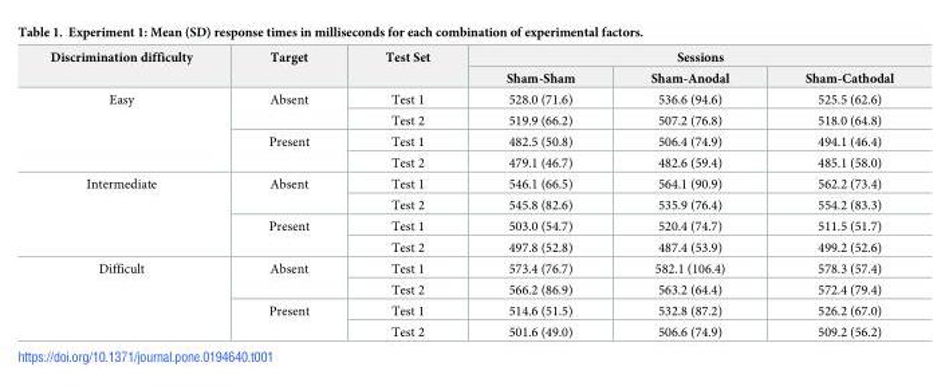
<table><thead><tr><td rowspan="2">Discrimination difficulty</td><td rowspan="2">Target</td><td rowspan="2">Test Set</td><td colspan="3">Sessions</td></tr><tr><td>Sham-Sham</td><td>Sham-Anodal</td><td>Sham-Cathodal</td></tr></thead><tbody><tr><td rowspan="4">Easy</td><td rowspan="2">Absent</td><td>Test 1</td><td>528.0 (71.6)</td><td>536.6 (94.6)</td><td>525.5 (62.6)</td></tr><tr><td>Test 2</td><td>519.9 (66.2)</td><td>507.2 (76.8)</td><td>518.0 (64.8)</td></tr><tr><td rowspan="2">Present</td><td>Test 1</td><td>482.5 (50.8)</td><td>506.4 (74.9)</td><td>494.1 (46.4)</td></tr><tr><td>Test 2</td><td>479.1 (46.7)</td><td>482.6 (59.4)</td><td>485.1 (58.0)</td></tr><tr><td rowspan="4">Intermediate</td><td rowspan="2">Absent</td><td>Test 1</td><td>546.1 (66.5)</td><td>564.1 (90.9)</td><td>562.2 (73.4)</td></tr><tr><td>Test 2</td><td>545.8 (82.6)</td><td>535.9 (76.4)</td><td>554.2 (83.3)</td></tr><tr><td rowspan="2">Present</td><td>Test 1</td><td>503.0 (54.7)</td><td>520.4 (74.7)</td><td>511.5 (51.7)</td></tr><tr><td>Test 2</td><td>497.8 (52.8)</td><td>487.4 (53.9)</td><td>499.2 (52.6)</td></tr><tr><td rowspan="4">Difficult</td><td rowspan="2">Absent</td><td>Test 1</td><td>573.4 (76.7)</td><td>582.1 (106.4)</td><td>578.3 (57.4)</td></tr><tr><td>Test 2</td><td>566.2 (86.9)</td><td>563.2 (64.4)</td><td>572.4 (79.4)</td></tr><tr><td rowspan="2">Present</td><td>Test 1</td><td>514.6 (51.5)</td><td>532.8 (87.2)</td><td>526.2 (67.0)</td></tr><tr><td>Test 2</td><td>501.6 (49.0)</td><td>506.6 (74.9)</td><td>509.2 (56.2)</td></tr></tbody></table>